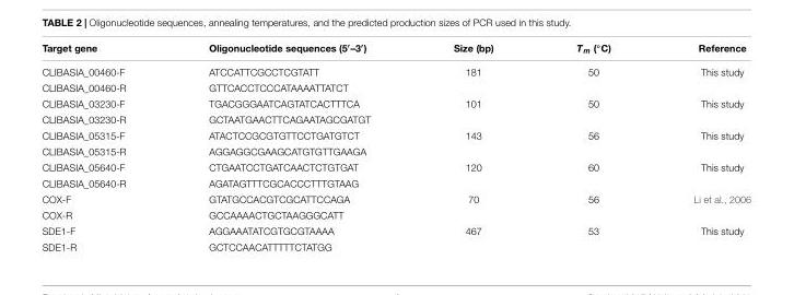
<table><thead><tr><td>Target gene</td><td>Oligonucleotide sequences (5′–3′)</td><td>Size (bp)</td><td>Tm (◦C)</td><td>Reference</td></tr></thead><tbody><tr><td>CLIBASIA_00460-F</td><td>ATCCATTCGCCTCGTATT</td><td>181</td><td>50</td><td>This study</td></tr><tr><td>CLIBASIA_00460-R</td><td>GTTCACCTCCCATAAAATTATCT</td><td></td><td></td><td></td></tr><tr><td>CLIBASIA_03230-F</td><td>TGACGGGAATCAGTATCACTTTCA</td><td>101</td><td>50</td><td>This study</td></tr><tr><td>CLIBASIA_03230-R</td><td>GCTAATGAACTTCAGAATAGCGATGT</td><td></td><td></td><td></td></tr><tr><td>CLIBASIA_05315-F</td><td>ATACTCCGCGTGTTCCTGATGTCT</td><td>143</td><td>56</td><td>This study</td></tr><tr><td>CLIBASIA_05315-R</td><td>AGGAGGCGAAGCATGTGTTGAAGA</td><td></td><td></td><td></td></tr><tr><td>CLIBASIA_05640-F</td><td>CTGAATCCTGATCAACTCTGTGAT</td><td>120</td><td>60</td><td>This study</td></tr><tr><td>CLIBASIA_05640-R</td><td>AGATAGTTTCGCACCCTTTGTAAG</td><td></td><td></td><td></td></tr><tr><td>COX-F</td><td>GTATGCCACGTCGCATTCCAGA</td><td>70</td><td>56</td><td>Li et al., 2006</td></tr><tr><td>COX-R</td><td>GCCAAAACTGCTAAGGGCATT</td><td></td><td></td><td></td></tr><tr><td>SDE1-F</td><td>AGGAAATATCGTGCGTAAAA</td><td>467</td><td>53</td><td>This study</td></tr><tr><td>SDE1-R</td><td>GCTCCAACATTTTTCTATGG</td><td></td><td></td><td></td></tr></tbody></table>